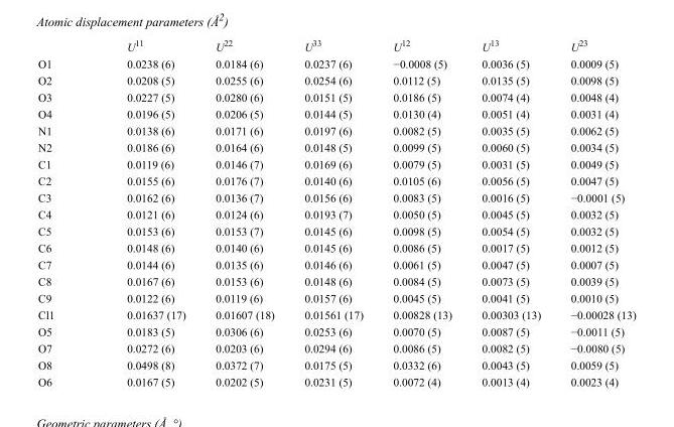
<table><thead><tr><td></td><td>U<sup>11</sup></td><td>U<sup>22</sup></td><td>U<sup>33</sup></td><td>U<sup>12</sup></td><td>U<sup>13</sup></td><td>U<sup>23</sup></td></tr></thead><tbody><tr><td>O1</td><td>0.0238 (6)</td><td>0.0184 (6)</td><td>0.0237 (6)</td><td>−0.0008 (5)</td><td>0.0036 (5)</td><td>0.0009 (5)</td></tr><tr><td>O2</td><td>0.0208 (5)</td><td>0.0255 (6)</td><td>0.0254 (6)</td><td>0.0112 (5)</td><td>0.0135 (5)</td><td>0.0098 (5)</td></tr><tr><td>O3</td><td>0.0227 (5)</td><td>0.0280 (6)</td><td>0.0151 (5)</td><td>0.0186 (5)</td><td>0.0074 (4)</td><td>0.0048 (4)</td></tr><tr><td>O4</td><td>0.0196 (5)</td><td>0.0206 (5)</td><td>0.0144 (5)</td><td>0.0130 (4)</td><td>0.0051 (4)</td><td>0.0031 (4)</td></tr><tr><td>N1</td><td>0.0138 (6)</td><td>0.0171 (6)</td><td>0.0197 (6)</td><td>0.0082 (5)</td><td>0.0035 (5)</td><td>0.0062 (5)</td></tr><tr><td>N2</td><td>0.0186 (6)</td><td>0.0164 (6)</td><td>0.0148 (5)</td><td>0.0099 (5)</td><td>0.0060 (5)</td><td>0.0034 (5)</td></tr><tr><td>C1</td><td>0.0119 (6)</td><td>0.0146 (7)</td><td>0.0169 (6)</td><td>0.0079 (5)</td><td>0.0031 (5)</td><td>0.0049 (5)</td></tr><tr><td>C2</td><td>0.0155 (6)</td><td>0.0176 (7)</td><td>0.0140 (6)</td><td>0.0105 (6)</td><td>0.0056 (5)</td><td>0.0047 (5)</td></tr><tr><td>C3</td><td>0.0162 (6)</td><td>0.0136 (7)</td><td>0.0156 (6)</td><td>0.0083 (5)</td><td>0.0016 (5)</td><td>−0.0001 (5)</td></tr><tr><td>C4</td><td>0.0121 (6)</td><td>0.0124 (6)</td><td>0.0193 (7)</td><td>0.0050 (5)</td><td>0.0045 (5)</td><td>0.0032 (5)</td></tr><tr><td>C5</td><td>0.0153 (6)</td><td>0.0153 (7)</td><td>0.0145 (6)</td><td>0.0098 (5)</td><td>0.0054 (5)</td><td>0.0032 (5)</td></tr><tr><td>C6</td><td>0.0148 (6)</td><td>0.0140 (6)</td><td>0.0145 (6)</td><td>0.0086 (5)</td><td>0.0017 (5)</td><td>0.0012 (5)</td></tr><tr><td>C7</td><td>0.0144 (6)</td><td>0.0135 (6)</td><td>0.0146 (6)</td><td>0.0061 (5)</td><td>0.0047 (5)</td><td>0.0007 (5)</td></tr><tr><td>C8</td><td>0.0167 (6)</td><td>0.0153 (6)</td><td>0.0148 (6)</td><td>0.0084 (5)</td><td>0.0073 (5)</td><td>0.0039 (5)</td></tr><tr><td>C9</td><td>0.0122 (6)</td><td>0.0119 (6)</td><td>0.0157 (6)</td><td>0.0045 (5)</td><td>0.0041 (5)</td><td>0.0010 (5)</td></tr><tr><td>Cl1</td><td>0.01637 (17)</td><td>0.01607 (18)</td><td>0.01561 (17)</td><td>0.00828 (13)</td><td>0.00303 (13)</td><td>−0.00028 (13)</td></tr><tr><td>O5</td><td>0.0183 (5)</td><td>0.0306 (6)</td><td>0.0253 (6)</td><td>0.0070 (5)</td><td>0.0087 (5)</td><td>−0.0011 (5)</td></tr><tr><td>O7</td><td>0.0272 (6)</td><td>0.0203 (6)</td><td>0.0294 (6)</td><td>0.0086 (5)</td><td>0.0082 (5)</td><td>−0.0080 (5)</td></tr><tr><td>O8</td><td>0.0498 (8)</td><td>0.0372 (7)</td><td>0.0175 (5)</td><td>0.0332 (6)</td><td>0.0043 (5)</td><td>0.0059 (5)</td></tr><tr><td>O6</td><td>0.0167 (5)</td><td>0.0202 (5)</td><td>0.0231 (5)</td><td>0.0072 (4)</td><td>0.0013 (4)</td><td>0.0023 (4)</td></tr></tbody></table>